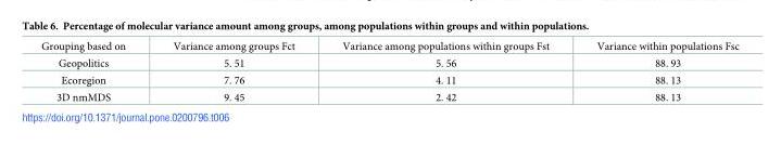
<table><tbody><tr><td>Grouping based on</td><td>Variance among groups Fct</td><td>Variance among populations within groups Fst</td><td>Variance within populations Fsc</td></tr><tr><td>Geopolitics</td><td>5. 51</td><td>5. 56</td><td>88. 93</td></tr><tr><td>Ecoregion</td><td>7. 76</td><td>4. 11</td><td>88. 13</td></tr><tr><td>3D nmMDS</td><td>9. 45</td><td>2. 42</td><td>88. 13</td></tr></tbody></table>